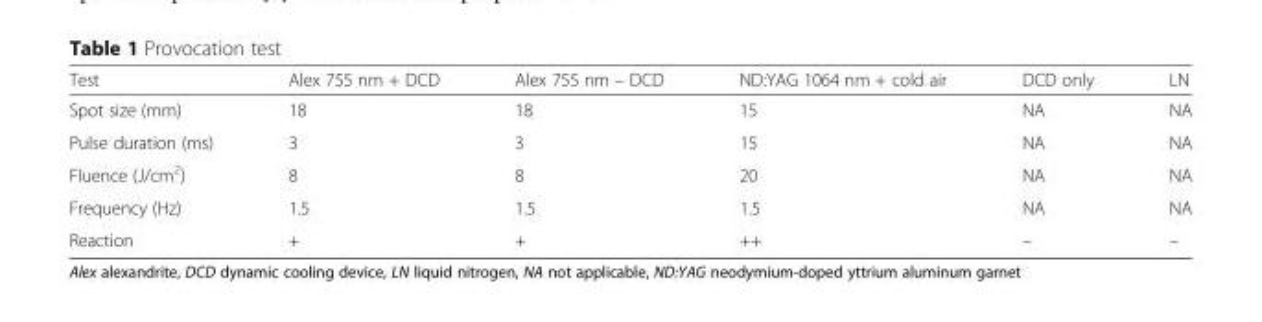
<table><thead><tr><td>Test</td><td>Alex 755 nm + DCD</td><td>Alex 755 nm – DCD</td><td>ND:YAG 1064 nm + cold air</td><td>DCD only</td><td>LN</td></tr></thead><tbody><tr><td>Spot size (mm)</td><td>18</td><td>18</td><td>15</td><td>NA</td><td>NA</td></tr><tr><td>Pulse duration (ms)</td><td>3</td><td>3</td><td>15</td><td>NA</td><td>NA</td></tr><tr><td>Fluence (J/cm<sup>2</sup>)</td><td>8</td><td>8</td><td>20</td><td>NA</td><td>NA</td></tr><tr><td>Frequency (Hz)</td><td>1.5</td><td>1.5</td><td>1.5</td><td>NA</td><td>NA</td></tr><tr><td>Reaction</td><td>+</td><td>+</td><td>++</td><td>–</td><td>–</td></tr></tbody></table>